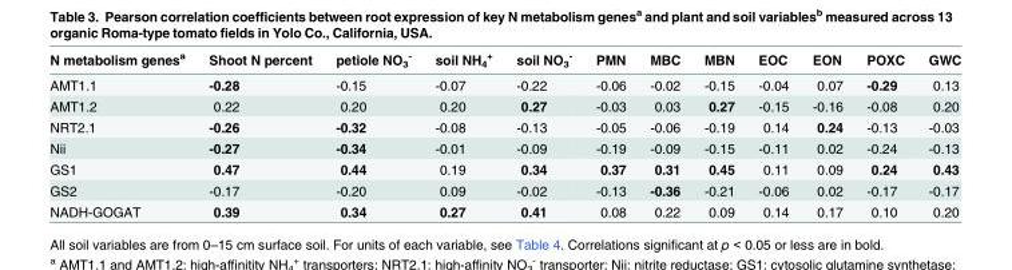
<table><thead><tr><td>N metabolism genes<sup>a</sup></td><td>Shoot N percent</td><td>petiole NO<sub>3</sub> <sup>-</sup></td><td>soil NH<sub>4</sub> <sup>+</sup></td><td>soil NO<sub>3</sub> <sup>-</sup></td><td>PMN</td><td>MBC</td><td>MBN</td><td>EOC</td><td>EON</td><td>POXC</td><td>GWC</td></tr></thead><tbody><tr><td>AMT1.1</td><td>-0.28</td><td>-0.15</td><td>-0.07</td><td>-0.22</td><td>-0.06</td><td>-0.02</td><td>-0.15</td><td>-0.04</td><td>0.07</td><td>-0.29</td><td>0.13</td></tr><tr><td>AMT1.2</td><td>0.22</td><td>0.20</td><td>0.20</td><td>0.27</td><td>-0.03</td><td>0.03</td><td>0.27</td><td>-0.15</td><td>-0.16</td><td>-0.08</td><td>0.20</td></tr><tr><td>NRT2.1</td><td>-0.26</td><td>-0.32</td><td>-0.08</td><td>-0.13</td><td>-0.05</td><td>-0.06</td><td>-0.19</td><td>0.14</td><td>0.24</td><td>-0.13</td><td>-0.03</td></tr><tr><td>Nii</td><td>-0.27</td><td>-0.34</td><td>-0.01</td><td>-0.09</td><td>-0.19</td><td>-0.09</td><td>-0.15</td><td>-0.11</td><td>0.02</td><td>-0.24</td><td>-0.13</td></tr><tr><td>GS1</td><td>0.47</td><td>0.44</td><td>0.19</td><td>0.34</td><td>0.37</td><td>0.31</td><td>0.45</td><td>0.11</td><td>0.09</td><td>0.24</td><td>0.43</td></tr><tr><td>GS2</td><td>-0.17</td><td>-0.20</td><td>0.09</td><td>-0.02</td><td>-0.13</td><td>-0.36</td><td>-0.21</td><td>-0.06</td><td>0.02</td><td>-0.17</td><td>-0.17</td></tr><tr><td>NADH-GOGAT</td><td>0.39</td><td>0.34</td><td>0.27</td><td>0.41</td><td>0.08</td><td>0.22</td><td>0.09</td><td>0.14</td><td>0.17</td><td>0.10</td><td>0.20</td></tr></tbody></table>